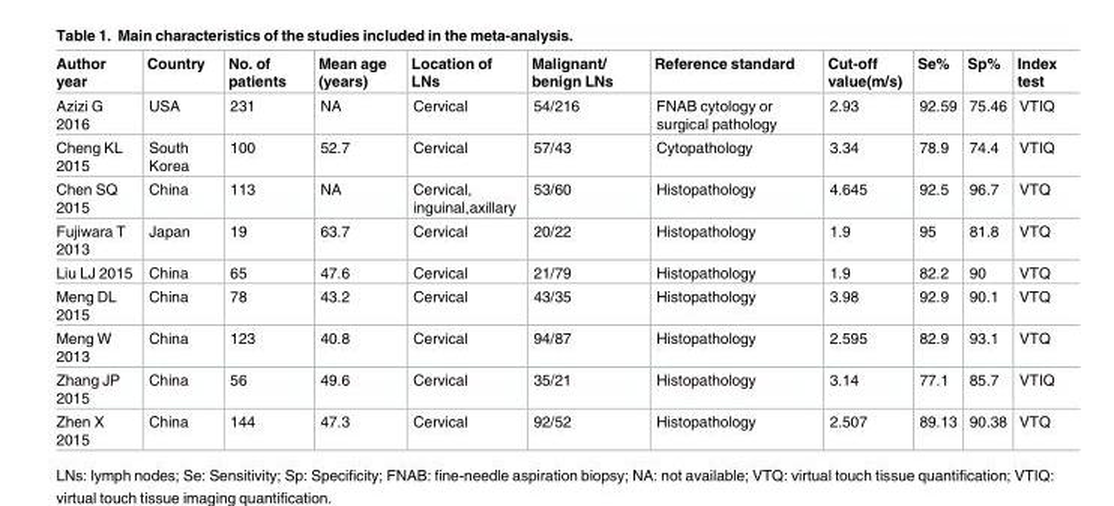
<table><thead><tr><td>Author year</td><td>Country</td><td>No. of patients</td><td>Mean age (years)</td><td>Location of LNs</td><td>Malignant/ benign LNs</td><td>Reference standard</td><td>Cut-off value(m/s)</td><td>Se%</td><td>Sp%</td><td>Index test</td></tr></thead><tbody><tr><td>Azizi G 2016</td><td>USA</td><td>231</td><td>NA</td><td>Cervical</td><td>54/216</td><td>FNAB cytology or surgical pathology</td><td>2.93</td><td>92.59</td><td>75.46</td><td>VTIQ</td></tr><tr><td>Cheng KL 2015</td><td>South Korea</td><td>100</td><td>52.7</td><td>Cervical</td><td>57/43</td><td>Cytopathology</td><td>3.34</td><td>78.9</td><td>74.4</td><td>VTIQ</td></tr><tr><td>Chen SQ 2015</td><td>China</td><td>113</td><td>NA</td><td>Cervical, inguinal,axillary</td><td>53/60</td><td>Histopathology</td><td>4.645</td><td>92.5</td><td>96.7</td><td>VTQ</td></tr><tr><td>Fujiwara T 2013</td><td>Japan</td><td>19</td><td>63.7</td><td>Cervical</td><td>20/22</td><td>Histopathology</td><td>1.9</td><td>95</td><td>81.8</td><td>VTQ</td></tr><tr><td>Liu LJ 2015</td><td>China</td><td>65</td><td>47.6</td><td>Cervical</td><td>21/79</td><td>Histopathology</td><td>1.9</td><td>82.2</td><td>90</td><td>VTQ</td></tr><tr><td>Meng DL 2015</td><td>China</td><td>78</td><td>43.2</td><td>Cervical</td><td>43/35</td><td>Histopathology</td><td>3.98</td><td>92.9</td><td>90.1</td><td>VTQ</td></tr><tr><td>Meng W 2013</td><td>China</td><td>123</td><td>40.8</td><td>Cervical</td><td>94/87</td><td>Histopathology</td><td>2.595</td><td>82.9</td><td>93.1</td><td>VTQ</td></tr><tr><td>Zhang JP 2015</td><td>China</td><td>56</td><td>49.6</td><td>Cervical</td><td>35/21</td><td>Histopathology</td><td>3.14</td><td>77.1</td><td>85.7</td><td>VTIQ</td></tr><tr><td>Zhen X 2015</td><td>China</td><td>144</td><td>47.3</td><td>Cervical</td><td>92/52</td><td>Histopathology</td><td>2.507</td><td>89.13</td><td>90.38</td><td>VTQ</td></tr></tbody></table>